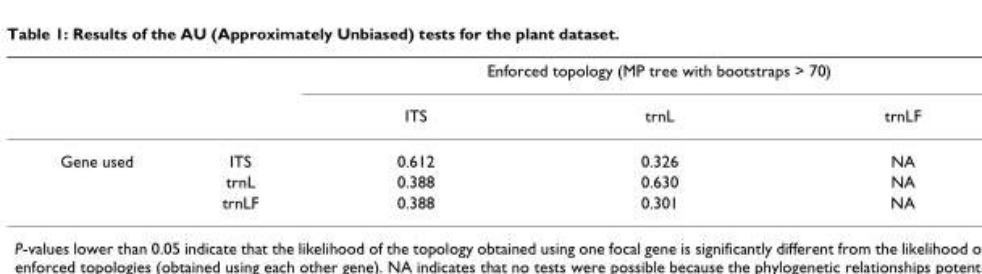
<table><thead><tr><td rowspan="2"></td><td rowspan="2"></td><td colspan="3">Enforced topology (MP tree with bootstraps &gt; 70)</td></tr><tr><td>ITS</td><td>trnL</td><td>trnLF</td></tr></thead><tbody><tr><td rowspan="3">Gene used</td><td>ITS</td><td>0.612</td><td>0.326</td><td>NA</td></tr><tr><td>trnL</td><td>0.388</td><td>0.630</td><td>NA</td></tr><tr><td>trnLF</td><td>0.388</td><td>0.301</td><td>NA</td></tr></tbody></table>